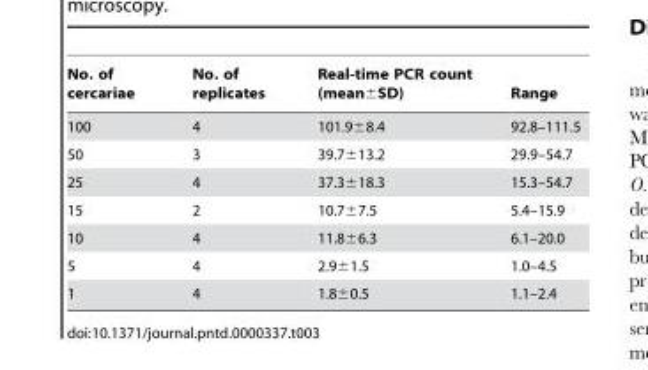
<table><thead><tr><td>No. of cercariae</td><td>No. of replicates</td><td>Real-time PCR count (mean±SD)</td><td>Range</td></tr></thead><tbody><tr><td>100</td><td>4</td><td>101.9±8.4</td><td>92.8–111.5</td></tr><tr><td>50</td><td>3</td><td>39.7±13.2</td><td>29.9–54.7</td></tr><tr><td>25</td><td>4</td><td>37.3±18.3</td><td>15.3–54.7</td></tr><tr><td>15</td><td>2</td><td>10.7±7.5</td><td>5.4–15.9</td></tr><tr><td>10</td><td>4</td><td>11.8±6.3</td><td>6.1–20.0</td></tr><tr><td>5</td><td>4</td><td>2.9±1.5</td><td>1.0–4.5</td></tr><tr><td>1</td><td>4</td><td>1.8±0.5</td><td>1.1–2.4</td></tr></tbody></table>